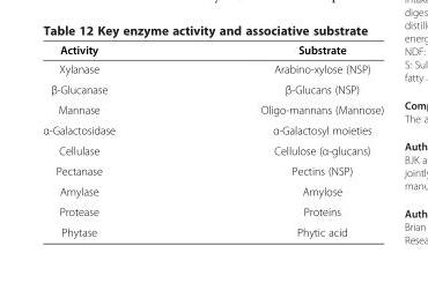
<table><thead><tr><td>Activity</td><td>Substrate</td></tr></thead><tbody><tr><td>Xylanase</td><td>Arabino-xylose (NSP)</td></tr><tr><td>β-Glucanase</td><td>β-Glucans (NSP)</td></tr><tr><td>Mannase</td><td>Oligo-mannans (Mannose)</td></tr><tr><td>α-Galactosidase</td><td>α-Galactosyl moieties</td></tr><tr><td>Cellulase</td><td>Cellulose (α-glucans)</td></tr><tr><td>Pectanase</td><td>Pectins (NSP)</td></tr><tr><td>Amylase</td><td>Amylose</td></tr><tr><td>Protease</td><td>Proteins</td></tr><tr><td>Phytase</td><td>Phytic acid</td></tr></tbody></table>